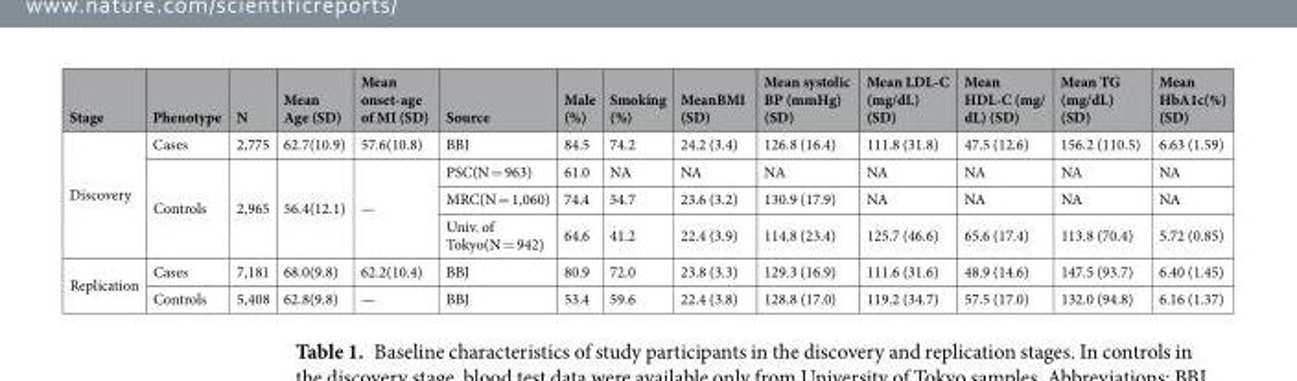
<table><thead><tr><td>Stage</td><td>Phenotype</td><td>N</td><td>Mean Age (SD)</td><td>Mean onset-age of MI (SD)</td><td>Source</td><td>Male (%)</td><td>Smoking (%)</td><td>MeanBMI (SD)</td><td>Mean systolic BP (mmHg) (SD)</td><td>Mean LDL-C (mg/dL) (SD)</td><td>Mean HDL-C (mg/ dL) (SD)</td><td>Mean TG (mg/dL) (SD)</td><td>Mean HbA1c(%) (SD)</td></tr></thead><tbody><tr><td rowspan="4">Discovery</td><td>Cases</td><td>2,775</td><td>62.7(10.9)</td><td>57.6(10.8)</td><td>BBJ</td><td>84.5</td><td>74.2</td><td>24.2 (3.4)</td><td>126.8 (16.4)</td><td>111.8 (31.8)</td><td>47.5 (12.6)</td><td>156.2 (110.5)</td><td>6.63 (1.59)</td></tr><tr><td rowspan="3">Controls</td><td rowspan="3">2,965</td><td rowspan="3">56.4(12.1)</td><td rowspan="3">—</td><td>PSC(N = 963)</td><td>61.0</td><td>NA</td><td>NA</td><td>NA</td><td>NA</td><td>NA</td><td>NA</td><td>NA</td></tr><tr><td>MRC(N = 1,060)</td><td>74.4</td><td>54.7</td><td>23.6 (3.2)</td><td>130.9 (17.9)</td><td>NA</td><td>NA</td><td>NA</td><td>NA</td></tr><tr><td>Univ. of Tokyo(N = 942)</td><td>64.6</td><td>41.2</td><td>22.4 (3.9)</td><td>114.8 (23.4)</td><td>125.7 (46.6)</td><td>65.6 (17.4)</td><td>113.8 (70.4)</td><td>5.72 (0.85)</td></tr><tr><td rowspan="2">Replication</td><td>Cases</td><td>7,181</td><td>68.0(9.8)</td><td>62.2(10.4)</td><td>BBJ</td><td>80.9</td><td>72.0</td><td>23.8 (3.3)</td><td>129.3 (16.9)</td><td>111.6 (31.6)</td><td>48.9 (14.6)</td><td>147.5 (93.7)</td><td>6.40 (1.45)</td></tr><tr><td>Controls</td><td>5,408</td><td>62.8(9.8)</td><td>—</td><td>BBJ</td><td>53.4</td><td>59.6</td><td>22.4 (3.8)</td><td>128.8 (17.0)</td><td>119.2 (34.7)</td><td>57.5 (17.0)</td><td>132.0 (94.8)</td><td>6.16 (1.37)</td></tr></tbody></table>